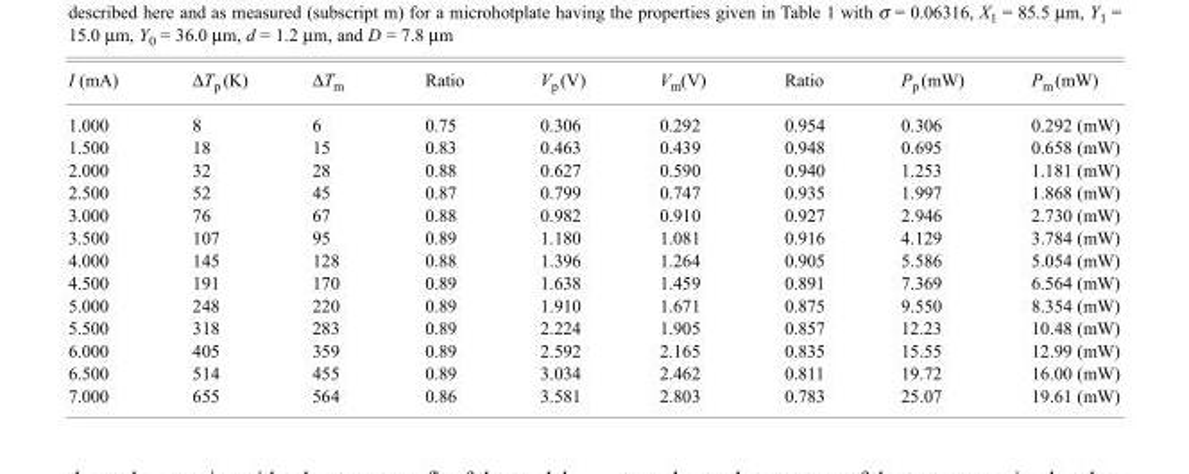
<table><thead><tr><td>I (mA)</td><td>∆Tp (K)</td><td>∆Tm</td><td>Ratio</td><td>V<sub>p</sub>(V)</td><td>V<sub>m</sub>(V)</td><td>Ratio</td><td>P<sub>p</sub>(mW)</td><td>P<sub>m</sub>(mW)</td></tr></thead><tbody><tr><td>1.000</td><td>8</td><td>6</td><td>0.75</td><td>0.306</td><td>0.292</td><td>0.954</td><td>0.306</td><td>0.292 (mW)</td></tr><tr><td>1.500</td><td>18</td><td>15</td><td>0.83</td><td>0.463</td><td>0.439</td><td>0.948</td><td>0.695</td><td>0.658 (mW)</td></tr><tr><td>2.000</td><td>32</td><td>28</td><td>0.88</td><td>0.627</td><td>0.590</td><td>0.940</td><td>1.253</td><td>1.181 (mW)</td></tr><tr><td>2.500</td><td>52</td><td>45</td><td>0.87</td><td>0.799</td><td>0.747</td><td>0.935</td><td>1.997</td><td>1.868 (mW)</td></tr><tr><td>3.000</td><td>76</td><td>67</td><td>0.88</td><td>0.982</td><td>0.910</td><td>0.927</td><td>2.946</td><td>2.730 (mW)</td></tr><tr><td>3.500</td><td>107</td><td>95</td><td>0.89</td><td>1.180</td><td>1.081</td><td>0.916</td><td>4.129</td><td>3.784 (mW)</td></tr><tr><td>4.000</td><td>145</td><td>128</td><td>0.88</td><td>1.396</td><td>1.264</td><td>0.905</td><td>5.586</td><td>5.054 (mW)</td></tr><tr><td>4.500</td><td>191</td><td>170</td><td>0.89</td><td>1.638</td><td>1.459</td><td>0.891</td><td>7.369</td><td>6.564 (mW)</td></tr><tr><td>5.000</td><td>248</td><td>220</td><td>0.89</td><td>1.910</td><td>1.671</td><td>0.875</td><td>9.550</td><td>8.354 (mW)</td></tr><tr><td>5.500</td><td>318</td><td>283</td><td>0.89</td><td>2.224</td><td>1.905</td><td>0.857</td><td>12.23</td><td>10.48 (mW)</td></tr><tr><td>6.000</td><td>405</td><td>359</td><td>0.89</td><td>2.592</td><td>2.165</td><td>0.835</td><td>15.55</td><td>12.99 (mW)</td></tr><tr><td>6.500</td><td>514</td><td>455</td><td>0.89</td><td>3.034</td><td>2.462</td><td>0.811</td><td>19.72</td><td>16.00 (mW)</td></tr><tr><td>7.000</td><td>655</td><td>564</td><td>0.86</td><td>3.581</td><td>2.803</td><td>0.783</td><td>25.07</td><td>19.61 (mW)</td></tr></tbody></table>